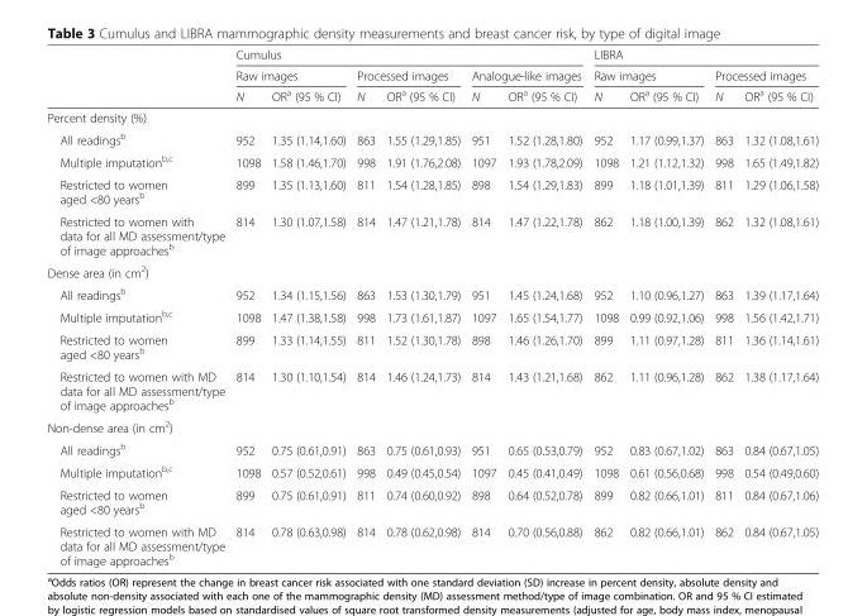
<table><thead><tr><td rowspan="3"></td><td colspan="6">Cumulus</td><td colspan="4">LIBRA</td></tr><tr><td colspan="2">Raw images</td><td colspan="2">Processed images</td><td colspan="2">Analogue-like images</td><td colspan="2">Raw images</td><td colspan="2">Processed images</td></tr><tr><td>N</td><td>OR<sup>a</sup> (95 % CI)</td><td>N</td><td>OR<sup>a</sup> (95 % CI)</td><td>N</td><td>OR<sup>a</sup> (95 % CI)</td><td>N</td><td>OR<sup>a</sup> (95 % CI)</td><td>N</td><td>OR<sup>a</sup> (95 % CI)</td></tr></thead><tbody><tr><td colspan="11">Percent density (%)</td></tr><tr><td>All readings<sup>b</sup></td><td>952</td><td>1.35 (1.14,1.60)</td><td>863</td><td>1.55 (1.29,1.85)</td><td>951</td><td>1.52 (1.28,1.80)</td><td>952</td><td>1.17 (0.99,1.37)</td><td>863</td><td>1.32 (1.08,1.61)</td></tr><tr><td>Multiple imputation<sup>b,c</sup></td><td>1098</td><td>1.58 (1.46,1.70)</td><td>998</td><td>1.91 (1.76,2.08)</td><td>1097</td><td>1.93 (1.78,2.09)</td><td>1098</td><td>1.21 (1.12,1.32)</td><td>998</td><td>1.65 (1.49,1.82)</td></tr><tr><td>Restricted to women aged &lt;80 years<sup>b</sup></td><td>899</td><td>1.35 (1.13,1.60)</td><td>811</td><td>1.54 (1.28,1.85)</td><td>898</td><td>1.54 (1.29,1.83)</td><td>899</td><td>1.18 (1.01,1.39)</td><td>811</td><td>1.29 (1.06,1.58)</td></tr><tr><td>Restricted to women with data for all MD assessment/type of image approaches<sup>b</sup></td><td>814</td><td>1.30 (1.07,1.58)</td><td>814</td><td>1.47 (1.21,1.78)</td><td>814</td><td>1.47 (1.22,1.78)</td><td>862</td><td>1.18 (1.00,1.39)</td><td>862</td><td>1.32 (1.08,1.61)</td></tr><tr><td colspan="11">Dense area (in cm<sup>2</sup>)</td></tr><tr><td>All readings<sup>b</sup></td><td>952</td><td>1.34 (1.15,1.56)</td><td>863</td><td>1.53 (1.30,1.79)</td><td>951</td><td>1.45 (1.24,1.68)</td><td>952</td><td>1.10 (0.96,1.27)</td><td>863</td><td>1.39 (1.17,1.64)</td></tr><tr><td>Multiple imputation<sup>b,c</sup></td><td>1098</td><td>1.47 (1.38,1.58)</td><td>998</td><td>1.73 (1.61,1.87)</td><td>1097</td><td>1.65 (1.54,1.77)</td><td>1098</td><td>0.99 (0.92,1.06)</td><td>998</td><td>1.56 (1.42,1.71)</td></tr><tr><td>Restricted to women aged &lt;80 years<sup>b</sup></td><td>899</td><td>1.33 (1.14,1.55)</td><td>811</td><td>1.52 (1.30,1.78)</td><td>898</td><td>1.46 (1.26,1.70)</td><td>899</td><td>1.11 (0.97,1.28)</td><td>811</td><td>1.36 (1.14,1.61)</td></tr><tr><td>Restricted to women with MD data for all MD assessment/type of image approaches<sup>b</sup></td><td>814</td><td>1.30 (1.10,1.54)</td><td>814</td><td>1.46 (1.24,1.73)</td><td>814</td><td>1.43 (1.21,1.68)</td><td>862</td><td>1.11 (0.96,1.28)</td><td>862</td><td>1.38 (1.17,1.64)</td></tr><tr><td colspan="11">Non-dense area (in cm<sup>2</sup>)</td></tr><tr><td>All readings<sup>b</sup></td><td>952</td><td>0.75 (0.61,0.91)</td><td>863</td><td>0.75 (0.61,0.93)</td><td>951</td><td>0.65 (0.53,0.79)</td><td>952</td><td>0.83 (0.67,1.02)</td><td>863</td><td>0.84 (0.67,1.05)</td></tr><tr><td>Multiple imputation<sup>b,c</sup></td><td>1098</td><td>0.57 (0.52,0.61)</td><td>998</td><td>0.49 (0.45,0.54)</td><td>1097</td><td>0.45 (0.41,0.49)</td><td>1098</td><td>0.61 (0.56,0.68)</td><td>998</td><td>0.54 (0.49,0.60)</td></tr><tr><td>Restricted to women aged &lt;80 years<sup>b</sup></td><td>899</td><td>0.75 (0.61,0.91)</td><td>811</td><td>0.74 (0.60,0.92)</td><td>898</td><td>0.64 (0.52,0.78)</td><td>899</td><td>0.82 (0.66,1.01)</td><td>811</td><td>0.84 (0.67,1.06)</td></tr><tr><td>Restricted to women with MD data for all MD assessment/type of image approaches<sup>b</sup></td><td>814</td><td>0.78 (0.63,0.98)</td><td>814</td><td>0.78 (0.62,0.98)</td><td>814</td><td>0.70 (0.56,0.88)</td><td>862</td><td>0.82 (0.66,1.01)</td><td>862</td><td>0.84 (0.67,1.05)</td></tr></tbody></table>